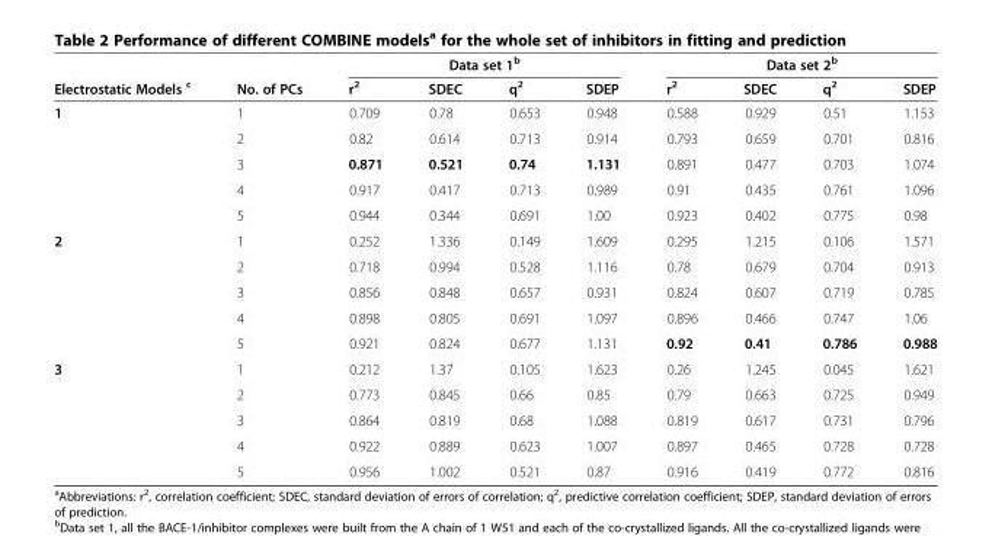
<table><thead><tr><td rowspan="2">Electrostatic Models <sup>c</sup></td><td rowspan="2">No. of PCs</td><td colspan="4">Data set 1<sup>b</sup></td><td colspan="4">Data set 2<sup>b</sup></td></tr><tr><td>r<sup>2</sup></td><td>SDEC</td><td>q<sup>2</sup></td><td>SDEP</td><td>r<sup>2</sup></td><td>SDEC</td><td>q<sup>2</sup></td><td>SDEP</td></tr></thead><tbody><tr><td rowspan="5">1</td><td>1</td><td>0.709</td><td>0.78</td><td>0.653</td><td>0.948</td><td>0.588</td><td>0.929</td><td>0.51</td><td>1.153</td></tr><tr><td>2</td><td>0.82</td><td>0.614</td><td>0.713</td><td>0.914</td><td>0.793</td><td>0.659</td><td>0.701</td><td>0.816</td></tr><tr><td>3</td><td>0.871</td><td>0.521</td><td>0.74</td><td>1.131</td><td>0.891</td><td>0.477</td><td>0.703</td><td>1.074</td></tr><tr><td>4</td><td>0.917</td><td>0.417</td><td>0.713</td><td>0.989</td><td>0.91</td><td>0.435</td><td>0.761</td><td>1.096</td></tr><tr><td>5</td><td>0.944</td><td>0.344</td><td>0.691</td><td>1.00</td><td>0.923</td><td>0.402</td><td>0.775</td><td>0.98</td></tr><tr><td rowspan="5">2</td><td>1</td><td>0.252</td><td>1.336</td><td>0.149</td><td>1.609</td><td>0.295</td><td>1.215</td><td>0.106</td><td>1.571</td></tr><tr><td>2</td><td>0.718</td><td>0.994</td><td>0.528</td><td>1.116</td><td>0.78</td><td>0.679</td><td>0.704</td><td>0.913</td></tr><tr><td>3</td><td>0.856</td><td>0.848</td><td>0.657</td><td>0.931</td><td>0.824</td><td>0.607</td><td>0.719</td><td>0.785</td></tr><tr><td>4</td><td>0.898</td><td>0.805</td><td>0.691</td><td>1.097</td><td>0.896</td><td>0.466</td><td>0.747</td><td>1.06</td></tr><tr><td>5</td><td>0.921</td><td>0.824</td><td>0.677</td><td>1.131</td><td>0.92</td><td>0.41</td><td>0.786</td><td>0.988</td></tr><tr><td rowspan="5">3</td><td>1</td><td>0.212</td><td>1.37</td><td>0.105</td><td>1.623</td><td>0.26</td><td>1.245</td><td>0.045</td><td>1.621</td></tr><tr><td>2</td><td>0.773</td><td>0.845</td><td>0.66</td><td>0.85</td><td>0.79</td><td>0.663</td><td>0.725</td><td>0.949</td></tr><tr><td>3</td><td>0.864</td><td>0.819</td><td>0.68</td><td>1.088</td><td>0.819</td><td>0.617</td><td>0.731</td><td>0.796</td></tr><tr><td>4</td><td>0.922</td><td>0.889</td><td>0.623</td><td>1.007</td><td>0.897</td><td>0.465</td><td>0.728</td><td>0.728</td></tr><tr><td>5</td><td>0.956</td><td>1.002</td><td>0.521</td><td>0.87</td><td>0.916</td><td>0.419</td><td>0.772</td><td>0.816</td></tr></tbody></table>